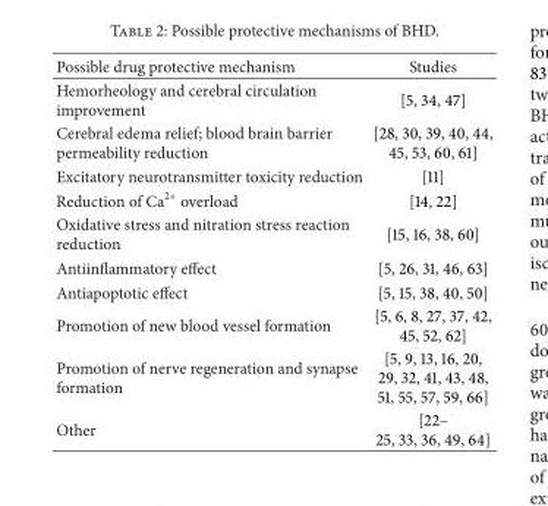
<table><thead><tr><td>Possible drug protective mechanism</td><td>Studies</td></tr></thead><tbody><tr><td>Hemorheology and cerebral circulation improvement</td><td>[5, 34, 47]</td></tr><tr><td>Cerebral edema relief; blood brain barrier permeability reduction</td><td>[28, 30, 39, 40, 44, 45, 53, 60, 61]</td></tr><tr><td>Excitatory neurotransmitter toxicity reduction</td><td>[11]</td></tr><tr><td>Reduction of Ca<sup>2+</sup> overload</td><td>[14, 22]</td></tr><tr><td>Oxidative stress and nitration stress reaction reduction</td><td>[15, 16, 38, 60]</td></tr><tr><td>Antiinflammatory effect</td><td>[5, 26, 31, 46, 63]</td></tr><tr><td>Antiapoptotic effect</td><td>[5, 15, 38, 40, 50]</td></tr><tr><td>Promotion of new blood vessel formation</td><td>[5, 6, 8, 27, 37, 42, 45, 52, 62]</td></tr><tr><td>Promotion of nerve regeneration and synapse formation</td><td>[5, 9, 13, 16, 20, 29, 32, 41, 43, 48, 51, 55, 57, 59, 66]</td></tr><tr><td>Other</td><td>[22– 25, 33, 36, 49, 64]</td></tr></tbody></table>